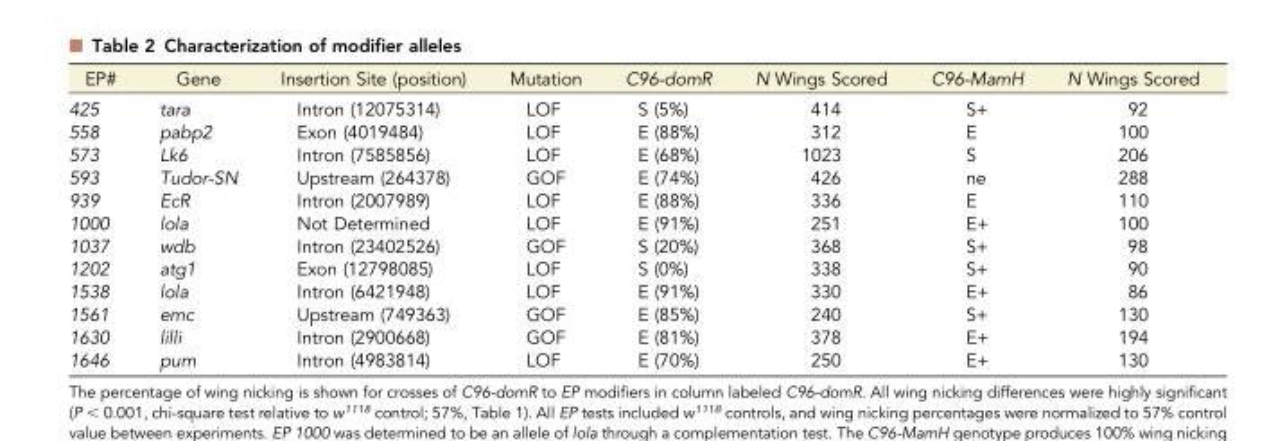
<table><thead><tr><td>EP#</td><td>Gene</td><td>Insertion Site (position)</td><td>Mutation</td><td>C96-domR</td><td>N Wings Scored</td><td>C96-MamH</td><td>N Wings Scored</td></tr></thead><tbody><tr><td>425</td><td>tara</td><td>Intron (12075314)</td><td>LOF</td><td>S (5%)</td><td>414</td><td>S+</td><td>92</td></tr><tr><td>558</td><td>pabp2</td><td>Exon (4019484)</td><td>LOF</td><td>E (88%)</td><td>312</td><td>E</td><td>100</td></tr><tr><td>573</td><td>Lk6</td><td>Intron (7585856)</td><td>LOF</td><td>E (68%)</td><td>1023</td><td>S</td><td>206</td></tr><tr><td>593</td><td>Tudor-SN</td><td>Upstream (264378)</td><td>GOF</td><td>E (74%)</td><td>426</td><td>ne</td><td>288</td></tr><tr><td>939</td><td>EcR</td><td>Intron (2007989)</td><td>LOF</td><td>E (88%)</td><td>336</td><td>E</td><td>110</td></tr><tr><td>1000</td><td>lola</td><td>Not Determined</td><td>LOF</td><td>E (91%)</td><td>251</td><td>E+</td><td>100</td></tr><tr><td>1037</td><td>wdb</td><td>Intron (23402526)</td><td>GOF</td><td>S (20%)</td><td>368</td><td>S+</td><td>98</td></tr><tr><td>1202</td><td>atg1</td><td>Exon (12798085)</td><td>LOF</td><td>S (0%)</td><td>338</td><td>S+</td><td>90</td></tr><tr><td>1538</td><td>lola</td><td>Intron (6421948)</td><td>LOF</td><td>E (91%)</td><td>330</td><td>E+</td><td>86</td></tr><tr><td>1561</td><td>emc</td><td>Upstream (749363)</td><td>GOF</td><td>E (85%)</td><td>240</td><td>S+</td><td>130</td></tr><tr><td>1630</td><td>lilli</td><td>Intron (2900668)</td><td>GOF</td><td>E (81%)</td><td>378</td><td>E+</td><td>194</td></tr><tr><td>1646</td><td>pum</td><td>Intron (4983814)</td><td>LOF</td><td>E (70%)</td><td>250</td><td>E+</td><td>130</td></tr></tbody></table>